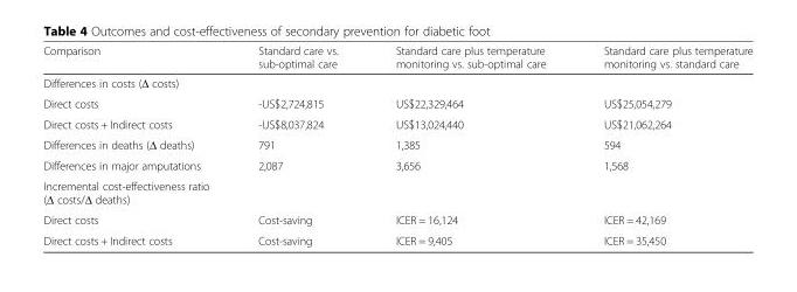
<table><thead><tr><td>Comparison</td><td>Standard care vs. sub-optimal care</td><td>Standard care plus temperature monitoring vs. sub-optimal care</td><td>Standard care plus temperature monitoring vs. standard care</td></tr></thead><tbody><tr><td colspan="4">Differences in costs (Δ costs)</td></tr><tr><td>Direct costs</td><td>-US$2,724,815</td><td>US$22,329,464</td><td>US$25,054,279</td></tr><tr><td>Direct costs + Indirect costs</td><td>-US$8,037,824</td><td>US$13,024,440</td><td>US$21,062,264</td></tr><tr><td>Differences in deaths (Δ deaths)</td><td>791</td><td>1,385</td><td>594</td></tr><tr><td>Differences in major amputations</td><td>2,087</td><td>3,656</td><td>1,568</td></tr><tr><td colspan="4">Incremental cost-effectiveness ratio (Δ costs/Δ deaths)</td></tr><tr><td>Direct costs</td><td>Cost-saving</td><td>ICER = 16,124</td><td>ICER = 42,169</td></tr><tr><td>Direct costs + Indirect costs</td><td>Cost-saving</td><td>ICER = 9,405</td><td>ICER = 35,450</td></tr></tbody></table>